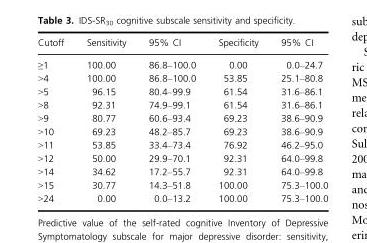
<table><thead><tr><td>Cutoff</td><td>Sensitivity</td><td>95% CI</td><td>Specificity</td><td>95% CI</td></tr></thead><tbody><tr><td>≥1</td><td>100.00</td><td>86.8–100.0</td><td>0.00</td><td>0.0–24.7</td></tr><tr><td>&gt;4</td><td>100.00</td><td>86.8–100.0</td><td>53.85</td><td>25.1–80.8</td></tr><tr><td>&gt;5</td><td>96.15</td><td>80.4–99.9</td><td>61.54</td><td>31.6–86.1</td></tr><tr><td>&gt;8</td><td>92.31</td><td>74.9–99.1</td><td>61.54</td><td>31.6–86.1</td></tr><tr><td>&gt;9</td><td>80.77</td><td>60.6–93.4</td><td>69.23</td><td>38.6–90.9</td></tr><tr><td>&gt;10</td><td>69.23</td><td>48.2–85.7</td><td>69.23</td><td>38.6–90.9</td></tr><tr><td>&gt;11</td><td>53.85</td><td>33.4–73.4</td><td>76.92</td><td>46.2–95.0</td></tr><tr><td>&gt;12</td><td>50.00</td><td>29.9–70.1</td><td>92.31</td><td>64.0–99.8</td></tr><tr><td>&gt;14</td><td>34.62</td><td>17.2–55.7</td><td>92.31</td><td>64.0–99.8</td></tr><tr><td>&gt;15</td><td>30.77</td><td>14.3–51.8</td><td>100.00</td><td>75.3–100.0</td></tr><tr><td>&gt;24</td><td>0.00</td><td>0.0–13.2</td><td>100.00</td><td>75.3–100.0</td></tr></tbody></table>